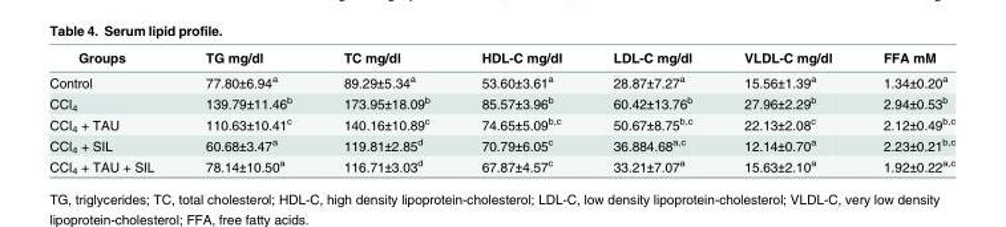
<table><thead><tr><td>Groups</td><td>TG mg/dl</td><td>TC mg/dl</td><td>HDL-C mg/dl</td><td>LDL-C mg/dl</td><td>VLDL-C mg/dl</td><td>FFA mM</td></tr></thead><tbody><tr><td>Control</td><td>77.80±6.94<sup>a</sup></td><td>89.29±5.34<sup>a</sup></td><td>53.60±3.61<sup>a</sup></td><td>28.87±7.27<sup>a</sup></td><td>15.56±1.39<sup>a</sup></td><td>1.34±0.20<sup>a</sup></td></tr><tr><td>CCl<sub>4</sub></td><td>139.79±11.46<sup>b</sup></td><td>173.95±18.09<sup>b</sup></td><td>85.57±3.96<sup>b</sup></td><td>60.42±13.76<sup>b</sup></td><td>27.96±2.29<sup>b</sup></td><td>2.94±0.53<sup>b</sup></td></tr><tr><td>CCl<sub>4</sub> + TAU</td><td>110.63±10.41<sup>c</sup></td><td>140.16±10.89<sup>c</sup></td><td>74.65±5.09<sup>b,c</sup></td><td>50.67±8.75<sup>b,c</sup></td><td>22.13±2.08<sup>c</sup></td><td>2.12±0.49<sup>b,c</sup></td></tr><tr><td>CCl<sub>4</sub> + SIL</td><td>60.68±3.47<sup>a</sup></td><td>119.81±2.85<sup>d</sup></td><td>70.79±6.05<sup>c</sup></td><td>36.884.68<sup>a,c</sup></td><td>12.14±0.70<sup>a</sup></td><td>2.23±0.21<sup>b,c</sup></td></tr><tr><td>CCl<sub>4</sub> + TAU + SIL</td><td>78.14±10.50<sup>a</sup></td><td>116.71±3.03<sup>d</sup></td><td>67.87±4.57<sup>c</sup></td><td>33.21±7.07<sup>a</sup></td><td>15.63±2.10<sup>a</sup></td><td>1.92±0.22<sup>a,c</sup></td></tr></tbody></table>